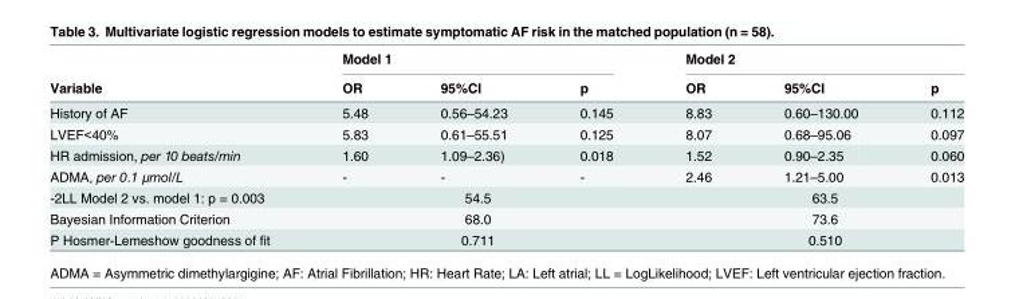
<table><thead><tr><td rowspan="2">Variable</td><td colspan="3">Model 1</td><td colspan="3">Model 2</td></tr><tr><td>OR</td><td>95%CI</td><td>p</td><td>OR</td><td>95%CI</td><td>p</td></tr></thead><tbody><tr><td>History of AF</td><td>5.48</td><td>0.56–54.23</td><td>0.145</td><td>8.83</td><td>0.60–130.00</td><td>0.112</td></tr><tr><td>LVEF&lt;40%</td><td>5.83</td><td>0.61–55.51</td><td>0.125</td><td>8.07</td><td>0.68–95.06</td><td>0.097</td></tr><tr><td>HR admission, per 10 beats/min</td><td>1.60</td><td>1.09–2.36)</td><td>0.018</td><td>1.52</td><td>0.90–2.35</td><td>0.060</td></tr><tr><td>ADMA, per 0.1 μmol/L</td><td>-</td><td>-</td><td>-</td><td>2.46</td><td>1.21–5.00</td><td>0.013</td></tr><tr><td>-2LL Model 2 vs. model 1: p = 0.003</td><td colspan="3">54.5</td><td colspan="3">63.5</td></tr><tr><td>Bayesian Information Criterion</td><td colspan="3">68.0</td><td colspan="3">73.6</td></tr><tr><td>P Hosmer-Lemeshow goodness of fit</td><td colspan="3">0.711</td><td colspan="3">0.510</td></tr></tbody></table>